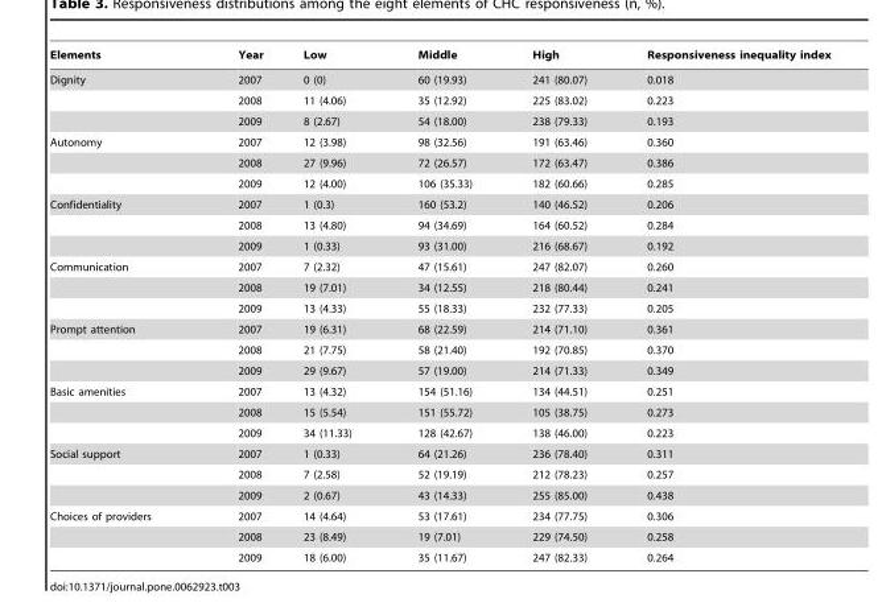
<table><thead><tr><td>Elements</td><td>Year</td><td>Low</td><td>Middle</td><td>High</td><td>Responsiveness inequality index</td></tr></thead><tbody><tr><td rowspan="3">Dignity</td><td>2007</td><td>0 (0)</td><td>60 (19.93)</td><td>241 (80.07)</td><td>0.018</td></tr><tr><td>2008</td><td>11 (4.06)</td><td>35 (12.92)</td><td>225 (83.02)</td><td>0.223</td></tr><tr><td>2009</td><td>8 (2.67)</td><td>54 (18.00)</td><td>238 (79.33)</td><td>0.193</td></tr><tr><td rowspan="3">Autonomy</td><td>2007</td><td>12 (3.98)</td><td>98 (32.56)</td><td>191 (63.46)</td><td>0.360</td></tr><tr><td>2008</td><td>27 (9.96)</td><td>72 (26.57)</td><td>172 (63.47)</td><td>0.386</td></tr><tr><td>2009</td><td>12 (4.00)</td><td>106 (35.33)</td><td>182 (60.66)</td><td>0.285</td></tr><tr><td rowspan="3">Confidentiality</td><td>2007</td><td>1 (0.3)</td><td>160 (53.2)</td><td>140 (46.52)</td><td>0.206</td></tr><tr><td>2008</td><td>13 (4.80)</td><td>94 (34.69)</td><td>164 (60.52)</td><td>0.284</td></tr><tr><td>2009</td><td>1 (0.33)</td><td>93 (31.00)</td><td>216 (68.67)</td><td>0.192</td></tr><tr><td rowspan="3">Communication</td><td>2007</td><td>7 (2.32)</td><td>47 (15.61)</td><td>247 (82.07)</td><td>0.260</td></tr><tr><td>2008</td><td>19 (7.01)</td><td>34 (12.55)</td><td>218 (80.44)</td><td>0.241</td></tr><tr><td>2009</td><td>13 (4.33)</td><td>55 (18.33)</td><td>232 (77.33)</td><td>0.205</td></tr><tr><td rowspan="3">Prompt attention</td><td>2007</td><td>19 (6.31)</td><td>68 (22.59)</td><td>214 (71.10)</td><td>0.361</td></tr><tr><td>2008</td><td>21 (7.75)</td><td>58 (21.40)</td><td>192 (70.85)</td><td>0.370</td></tr><tr><td>2009</td><td>29 (9.67)</td><td>57 (19.00)</td><td>214 (71.33)</td><td>0.349</td></tr><tr><td rowspan="3">Basic amenities</td><td>2007</td><td>13 (4.32)</td><td>154 (51.16)</td><td>134 (44.51)</td><td>0.251</td></tr><tr><td>2008</td><td>15 (5.54)</td><td>151 (55.72)</td><td>105 (38.75)</td><td>0.273</td></tr><tr><td>2009</td><td>34 (11.33)</td><td>128 (42.67)</td><td>138 (46.00)</td><td>0.223</td></tr><tr><td rowspan="3">Social support</td><td>2007</td><td>1 (0.33)</td><td>64 (21.26)</td><td>236 (78.40)</td><td>0.311</td></tr><tr><td>2008</td><td>7 (2.58)</td><td>52 (19.19)</td><td>212 (78.23)</td><td>0.257</td></tr><tr><td>2009</td><td>2 (0.67)</td><td>43 (14.33)</td><td>255 (85.00)</td><td>0.438</td></tr><tr><td rowspan="3">Choices of providers</td><td>2007</td><td>14 (4.64)</td><td>53 (17.61)</td><td>234 (77.75)</td><td>0.306</td></tr><tr><td>2008</td><td>23 (8.49)</td><td>19 (7.01)</td><td>229 (74.50)</td><td>0.258</td></tr><tr><td>2009</td><td>18 (6.00)</td><td>35 (11.67)</td><td>247 (82.33)</td><td>0.264</td></tr></tbody></table>